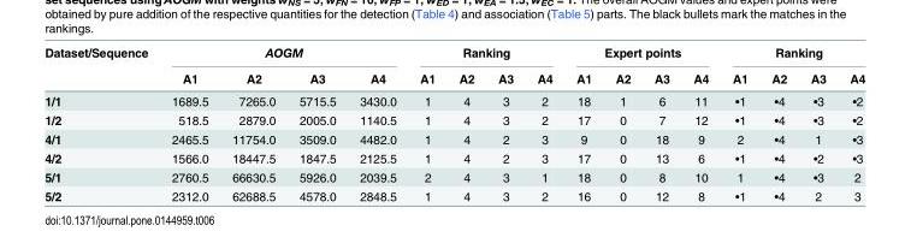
<table><thead><tr><td rowspan="2">Dataset/Sequence</td><td colspan="4">AOGM</td><td colspan="4">Ranking</td><td colspan="4">Expert points</td><td colspan="4">Ranking</td></tr><tr><td>A1</td><td>A2</td><td>A3</td><td>A4</td><td>A1</td><td>A2</td><td>A3</td><td>A4</td><td>A1</td><td>A2</td><td>A3</td><td>A4</td><td>A1</td><td>A2</td><td>A3</td><td>A4</td></tr></thead><tbody><tr><td>1/1</td><td>1689.5</td><td>7265.0</td><td>5715.5</td><td>3430.0</td><td>1</td><td>4</td><td>3</td><td>2</td><td>18</td><td>1</td><td>6</td><td>11</td><td>•1</td><td>•4</td><td>•3</td><td>•2</td></tr><tr><td>1/2</td><td>518.5</td><td>2879.0</td><td>2005.0</td><td>1140.5</td><td>1</td><td>4</td><td>3</td><td>2</td><td>17</td><td>0</td><td>7</td><td>12</td><td>•1</td><td>•4</td><td>•3</td><td>•2</td></tr><tr><td>4/1</td><td>2465.5</td><td>11754.0</td><td>3509.0</td><td>4482.0</td><td>1</td><td>4</td><td>2</td><td>3</td><td>9</td><td>0</td><td>18</td><td>9</td><td>2</td><td>•4</td><td>1</td><td>•3</td></tr><tr><td>4/2</td><td>1566.0</td><td>18447.5</td><td>1847.5</td><td>2125.5</td><td>1</td><td>4</td><td>2</td><td>3</td><td>17</td><td>0</td><td>13</td><td>6</td><td>•1</td><td>•4</td><td>•2</td><td>•3</td></tr><tr><td>5/1</td><td>2760.5</td><td>66630.5</td><td>5926.0</td><td>2039.5</td><td>2</td><td>4</td><td>3</td><td>1</td><td>18</td><td>0</td><td>8</td><td>10</td><td>1</td><td>•4</td><td>•3</td><td>2</td></tr><tr><td>5/2</td><td>2312.0</td><td>62688.5</td><td>4578.0</td><td>2848.5</td><td>1</td><td>4</td><td>3</td><td>2</td><td>16</td><td>0</td><td>12</td><td>8</td><td>•1</td><td>•4</td><td>2</td><td>3</td></tr></tbody></table>